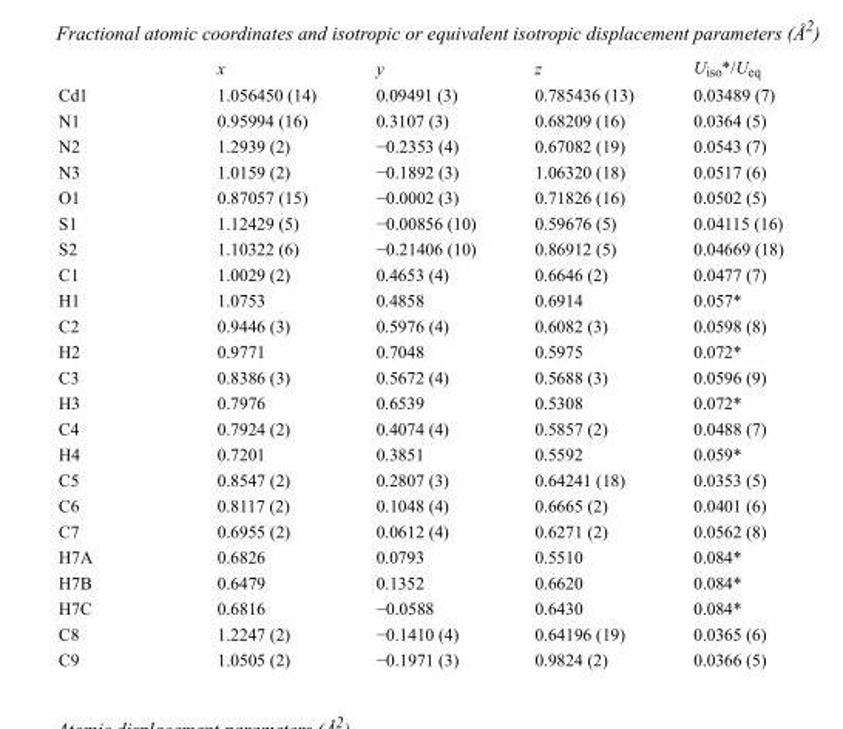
<table><thead><tr><td></td><td>x</td><td>y</td><td>z</td><td>U<sub>iso</sub>*/U<sub>eq</sub></td></tr></thead><tbody><tr><td>Cd1</td><td>1.056450 (14)</td><td>0.09491 (3)</td><td>0.785436 (13)</td><td>0.03489 (7)</td></tr><tr><td>N1</td><td>0.95994 (16)</td><td>0.3107 (3)</td><td>0.68209 (16)</td><td>0.0364 (5)</td></tr><tr><td>N2</td><td>1.2939 (2)</td><td>−0.2353 (4)</td><td>0.67082 (19)</td><td>0.0543 (7)</td></tr><tr><td>N3</td><td>1.0159 (2)</td><td>−0.1892 (3)</td><td>1.06320 (18)</td><td>0.0517 (6)</td></tr><tr><td>O1</td><td>0.87057 (15)</td><td>−0.0002 (3)</td><td>0.71826 (16)</td><td>0.0502 (5)</td></tr><tr><td>S1</td><td>1.12429 (5)</td><td>−0.00856 (10)</td><td>0.59676 (5)</td><td>0.04115 (16)</td></tr><tr><td>S2</td><td>1.10322 (6)</td><td>−0.21406 (10)</td><td>0.86912 (5)</td><td>0.04669 (18)</td></tr><tr><td>C1</td><td>1.0029 (2)</td><td>0.4653 (4)</td><td>0.6646 (2)</td><td>0.0477 (7)</td></tr><tr><td>H1</td><td>1.0753</td><td>0.4858</td><td>0.6914</td><td>0.057*</td></tr><tr><td>C2</td><td>0.9446 (3)</td><td>0.5976 (4)</td><td>0.6082 (3)</td><td>0.0598 (8)</td></tr><tr><td>H2</td><td>0.9771</td><td>0.7048</td><td>0.5975</td><td>0.072*</td></tr><tr><td>C3</td><td>0.8386 (3)</td><td>0.5672 (4)</td><td>0.5688 (3)</td><td>0.0596 (9)</td></tr><tr><td>H3</td><td>0.7976</td><td>0.6539</td><td>0.5308</td><td>0.072*</td></tr><tr><td>C4</td><td>0.7924 (2)</td><td>0.4074 (4)</td><td>0.5857 (2)</td><td>0.0488 (7)</td></tr><tr><td>H4</td><td>0.7201</td><td>0.3851</td><td>0.5592</td><td>0.059*</td></tr><tr><td>C5</td><td>0.8547 (2)</td><td>0.2807 (3)</td><td>0.64241 (18)</td><td>0.0353 (5)</td></tr><tr><td>C6</td><td>0.8117 (2)</td><td>0.1048 (4)</td><td>0.6665 (2)</td><td>0.0401 (6)</td></tr><tr><td>C7</td><td>0.6955 (2)</td><td>0.0612 (4)</td><td>0.6271 (2)</td><td>0.0562 (8)</td></tr><tr><td>H7A</td><td>0.6826</td><td>0.0793</td><td>0.5510</td><td>0.084*</td></tr><tr><td>H7B</td><td>0.6479</td><td>0.1352</td><td>0.6620</td><td>0.084*</td></tr><tr><td>H7C</td><td>0.6816</td><td>−0.0588</td><td>0.6430</td><td>0.084*</td></tr><tr><td>C8</td><td>1.2247 (2)</td><td>−0.1410 (4)</td><td>0.64196 (19)</td><td>0.0365 (6)</td></tr><tr><td>C9</td><td>1.0505 (2)</td><td>−0.1971 (3)</td><td>0.9824 (2)</td><td>0.0366 (5)</td></tr></tbody></table>